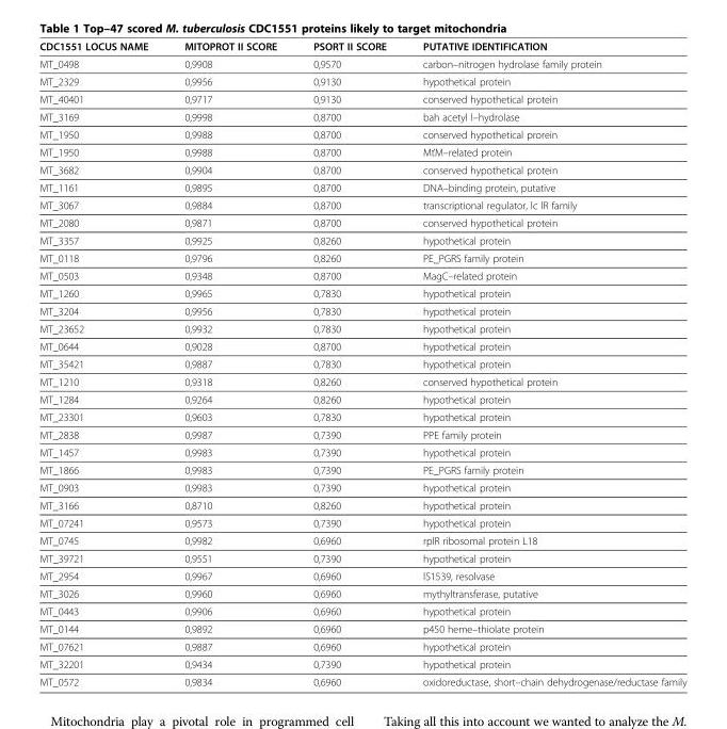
<table><thead><tr><td>CDC1551 LOCUS NAME</td><td>MITOPROT II SCORE</td><td>PSORT II SCORE</td><td>PUTATIVE IDENTIFICATION</td></tr></thead><tbody><tr><td>MT_0498</td><td>0,9908</td><td>0,9570</td><td>carbon–nitrogen hydrolase family protein</td></tr><tr><td>MT_2329</td><td>0,9956</td><td>0,9130</td><td>hypothetical protein</td></tr><tr><td>MT_40401</td><td>0,9717</td><td>0,9130</td><td>conserved hypothetical protein</td></tr><tr><td>MT_3169</td><td>0,9998</td><td>0,8700</td><td>bah acetyl l–hydrolase</td></tr><tr><td>MT_1950</td><td>0,9988</td><td>0,8700</td><td>conserved hypothetical prorein</td></tr><tr><td>MT_1950</td><td>0,9988</td><td>0,8700</td><td>MťM–related protein</td></tr><tr><td>MT_3682</td><td>0,9904</td><td>0,8700</td><td>conserved hypothetical protein</td></tr><tr><td>MT_1161</td><td>0,9895</td><td>0,8700</td><td>DNA–binding protein, putative</td></tr><tr><td>MT_3067</td><td>0,9884</td><td>0,8700</td><td>transcriptional regulator, lc lR family</td></tr><tr><td>MT_2080</td><td>0,9871</td><td>0,8700</td><td>conserved hypothetical protein</td></tr><tr><td>MT_3357</td><td>0,9925</td><td>0,8260</td><td>hypothetical protein</td></tr><tr><td>MT_0118</td><td>0,9796</td><td>0,8260</td><td>PE_PGRS family protein</td></tr><tr><td>MT_0503</td><td>0,9348</td><td>0,8700</td><td>MagC–related protein</td></tr><tr><td>MT_1260</td><td>0,9965</td><td>0,7830</td><td>hypothetical protein</td></tr><tr><td>MT_3204</td><td>0,9956</td><td>0,7830</td><td>hypothetical protein</td></tr><tr><td>MT_23652</td><td>0,9932</td><td>0,7830</td><td>hypothetical protein</td></tr><tr><td>MT_0644</td><td>0,9028</td><td>0,8700</td><td>hypothetical protein</td></tr><tr><td>MT_35421</td><td>0,9887</td><td>0,7830</td><td>hypothetical protein</td></tr><tr><td>MT_1210</td><td>0,9318</td><td>0,8260</td><td>conserved hypothetical protein</td></tr><tr><td>MT_1284</td><td>0,9264</td><td>0,8260</td><td>hypothetical protein</td></tr><tr><td>MT_23301</td><td>0,9603</td><td>0,7830</td><td>hypothetical protein</td></tr><tr><td>MT_2838</td><td>0,9987</td><td>0,7390</td><td>PPE family protein</td></tr><tr><td>MT_1457</td><td>0,9983</td><td>0,7390</td><td>hypothetical protein</td></tr><tr><td>MT_1866</td><td>0,9983</td><td>0,7390</td><td>PE_PGRS family protein</td></tr><tr><td>MT_0903</td><td>0,9983</td><td>0,7390</td><td>hypothetical protein</td></tr><tr><td>MT_3166</td><td>0,8710</td><td>0,8260</td><td>hypothetical protein</td></tr><tr><td>MT_07241</td><td>0,9573</td><td>0,7390</td><td>hypothetical protein</td></tr><tr><td>MT_0745</td><td>0,9982</td><td>0,6960</td><td>rplR ribosomal protein L18</td></tr><tr><td>MT_39721</td><td>0,9551</td><td>0,7390</td><td>hypothetical protein</td></tr><tr><td>MT_2954</td><td>0,9967</td><td>0,6960</td><td>lS1539, resolvase</td></tr><tr><td>MT_3026</td><td>0,9960</td><td>0,6960</td><td>mythyltransferase, putative</td></tr><tr><td>MT_0443</td><td>0,9906</td><td>0,6960</td><td>hypothetical protein</td></tr><tr><td>MT_0144</td><td>0,9892</td><td>0,6960</td><td>p450 heme–thiolate protein</td></tr><tr><td>MT_07621</td><td>0,9887</td><td>0,6960</td><td>hypothetical protein</td></tr><tr><td>MT_32201</td><td>0,9434</td><td>0,7390</td><td>hypothetical protein</td></tr><tr><td>MT_0572</td><td>0,9834</td><td>0,6960</td><td>oxidoreductase, short–chain dehydrogenase/reductase family</td></tr></tbody></table>